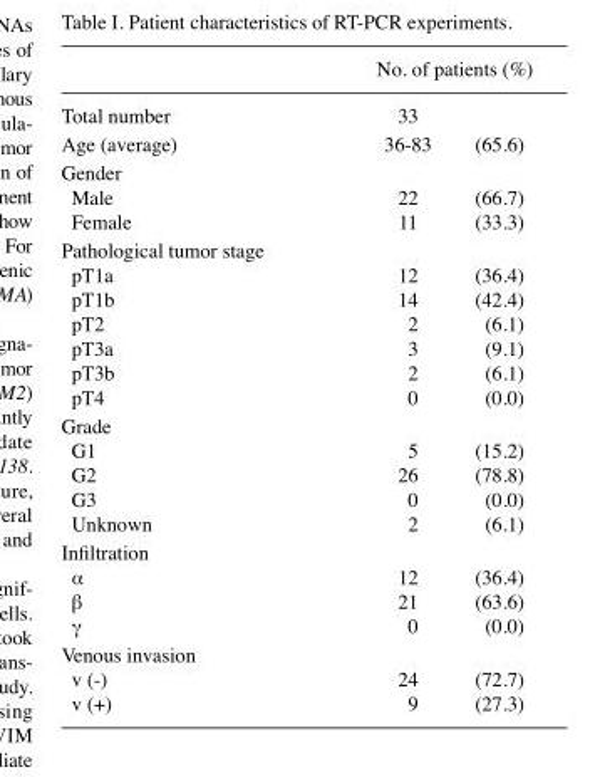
<table><thead><tr><td rowspan="2">Total number</td><td colspan="2">No. of patients (%)</td></tr><tr><td>33</td><td></td></tr></thead><tbody><tr><td>Age (average)</td><td>36-83</td><td>(65.6)</td></tr><tr><td colspan="3">Gender</td></tr><tr><td>Male</td><td>22</td><td>(66.7)</td></tr><tr><td>Female</td><td>11</td><td>(33.3)</td></tr><tr><td colspan="3">Pathological tumor stage</td></tr><tr><td>pT1a</td><td>12</td><td>(36.4)</td></tr><tr><td>pT1b</td><td>14</td><td>(42.4)</td></tr><tr><td>pT2</td><td>2</td><td>(6.1)</td></tr><tr><td>pT3a</td><td>3</td><td>(9.1)</td></tr><tr><td>pT3b</td><td>2</td><td>(6.1)</td></tr><tr><td>pT4</td><td>0</td><td>(0.0)</td></tr><tr><td colspan="3">Grade</td></tr><tr><td>G1</td><td>5</td><td>(15.2)</td></tr><tr><td>G2</td><td>26</td><td>(78.8)</td></tr><tr><td>G3</td><td>0</td><td>(0.0)</td></tr><tr><td>Unknown</td><td>2</td><td>(6.1)</td></tr><tr><td colspan="3">Infiltration</td></tr><tr><td>α</td><td>12</td><td>(36.4)</td></tr><tr><td>β</td><td>21</td><td>(63.6)</td></tr><tr><td>γ</td><td>0</td><td>(0.0)</td></tr><tr><td colspan="3">Venous invasion</td></tr><tr><td>v (-)</td><td>24</td><td>(72.7)</td></tr><tr><td>v (+)</td><td>9</td><td>(27.3)</td></tr></tbody></table>